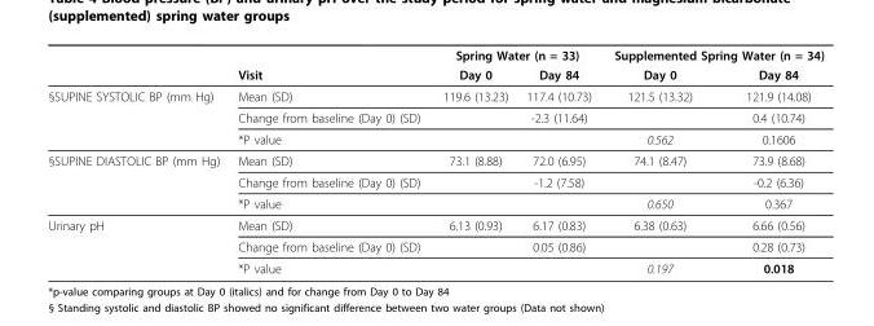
<table><thead><tr><td rowspan="2"></td><td rowspan="2">Visit</td><td colspan="2">Spring Water (n = 33)</td><td colspan="2">Supplemented Spring Water (n = 34)</td></tr><tr><td>Day 0</td><td>Day 84</td><td>Day 0</td><td>Day 84</td></tr></thead><tbody><tr><td rowspan="3">§SUPINE SYSTOLIC BP (mm Hg)</td><td>Mean (SD)</td><td>119.6 (13.23)</td><td>117.4 (10.73)</td><td>121.5 (13.32)</td><td>121.9 (14.08)</td></tr><tr><td>Change from baseline (Day 0) (SD)</td><td></td><td>-2.3 (11.64)</td><td></td><td>0.4 (10.74)</td></tr><tr><td>*P value</td><td></td><td></td><td>0.562</td><td>0.1606</td></tr><tr><td rowspan="3">§SUPINE DIASTOLIC BP (mm Hg)</td><td>Mean (SD)</td><td>73.1 (8.88)</td><td>72.0 (6.95)</td><td>74.1 (8.47)</td><td>73.9 (8.68)</td></tr><tr><td>Change from baseline (Day 0) (SD)</td><td></td><td>-1.2 (7.58)</td><td></td><td>-0.2 (6.36)</td></tr><tr><td>*P value</td><td></td><td></td><td>0.650</td><td>0.367</td></tr><tr><td rowspan="3">Urinary pH</td><td>Mean (SD)</td><td>6.13 (0.93)</td><td>6.17 (0.83)</td><td>6.38 (0.63)</td><td>6.66 (0.56)</td></tr><tr><td>Change from baseline (Day 0) (SD)</td><td></td><td>0.05 (0.86)</td><td></td><td>0.28 (0.73)</td></tr><tr><td>*P value</td><td></td><td></td><td>0.197</td><td>0.018</td></tr></tbody></table>